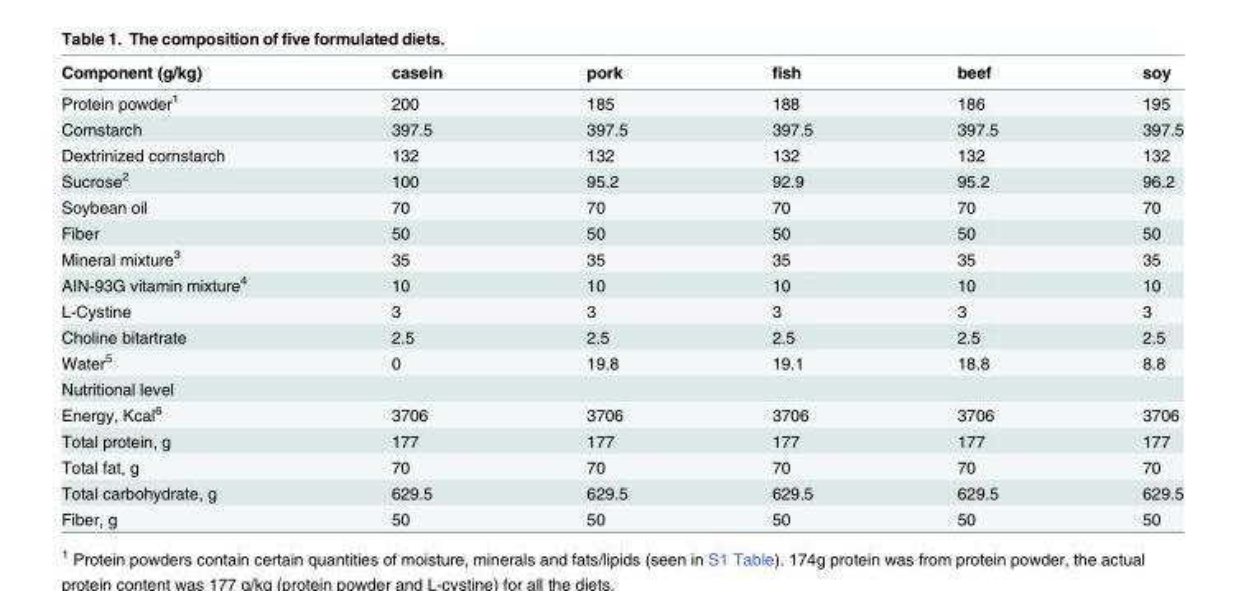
<table><thead><tr><td>Component (g/kg)</td><td>casein</td><td>pork</td><td>fish</td><td>beef</td><td>soy</td></tr></thead><tbody><tr><td>Protein powder<sup>1</sup></td><td>200</td><td>185</td><td>188</td><td>186</td><td>195</td></tr><tr><td>Cornstarch</td><td>397.5</td><td>397.5</td><td>397.5</td><td>397.5</td><td>397.5</td></tr><tr><td>Dextrinized cornstarch</td><td>132</td><td>132</td><td>132</td><td>132</td><td>132</td></tr><tr><td>Sucrose<sup>2</sup></td><td>100</td><td>95.2</td><td>92.9</td><td>95.2</td><td>96.2</td></tr><tr><td>Soybean oil</td><td>70</td><td>70</td><td>70</td><td>70</td><td>70</td></tr><tr><td>Fiber</td><td>50</td><td>50</td><td>50</td><td>50</td><td>50</td></tr><tr><td>Mineral mixture<sup>3</sup></td><td>35</td><td>35</td><td>35</td><td>35</td><td>35</td></tr><tr><td>AIN-93G vitamin mixture<sup>4</sup></td><td>10</td><td>10</td><td>10</td><td>10</td><td>10</td></tr><tr><td>L-Cystine</td><td>3</td><td>3</td><td>3</td><td>3</td><td>3</td></tr><tr><td>Choline bitartrate</td><td>2.5</td><td>2.5</td><td>2.5</td><td>2.5</td><td>2.5</td></tr><tr><td>Water<sup>5</sup></td><td>0</td><td>19.8</td><td>19.1</td><td>18.8</td><td>8.8</td></tr><tr><td colspan="6">Nutritional level</td></tr><tr><td>Energy, Kcal<sup>6</sup></td><td>3706</td><td>3706</td><td>3706</td><td>3706</td><td>3706</td></tr><tr><td>Total protein, g</td><td>177</td><td>177</td><td>177</td><td>177</td><td>177</td></tr><tr><td>Total fat, g</td><td>70</td><td>70</td><td>70</td><td>70</td><td>70</td></tr><tr><td>Total carbohydrate, g</td><td>629.5</td><td>629.5</td><td>629.5</td><td>629.5</td><td>629.5</td></tr><tr><td>Fiber, g</td><td>50</td><td>50</td><td>50</td><td>50</td><td>50</td></tr></tbody></table>